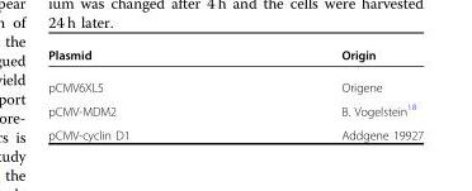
<table><thead><tr><td>Plasmid</td><td>Origin</td></tr></thead><tbody><tr><td>pCMV6XL5</td><td>Origene</td></tr><tr><td>pCMV-MDM2</td><td>B. Vogelstein<sup>18</sup></td></tr><tr><td>pCMV-cyclin D1</td><td>Addgene 19927</td></tr></tbody></table>